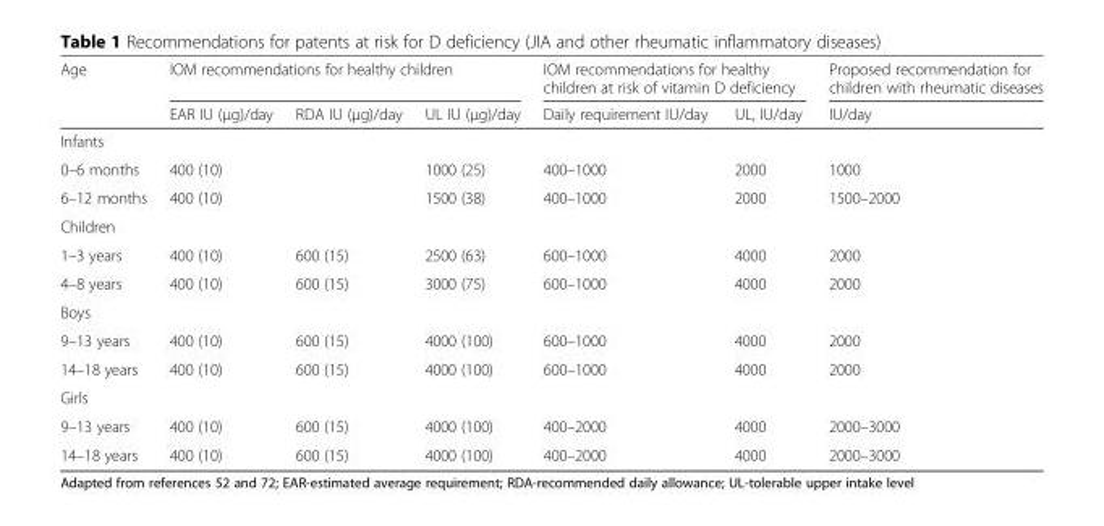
<table><thead><tr><td rowspan="2">Age</td><td colspan="3">IOM recommendations for healthy children</td><td colspan="2">IOM recommendations for healthy children at risk of vitamin D deficiency</td><td rowspan="2">Proposed recommendation for children with rheumatic diseases IU/day</td></tr><tr><td>EAR IU (μg)/day</td><td>RDA IU (μg)/day</td><td>UL IU (μg)/day</td><td>Daily requirement IU/day</td><td>UL, IU/day</td></tr></thead><tbody><tr><td colspan="7">Infants</td></tr><tr><td>0–6 months</td><td>400 (10)</td><td></td><td>1000 (25)</td><td>400–1000</td><td>2000</td><td>1000</td></tr><tr><td>6–12 months</td><td>400 (10)</td><td></td><td>1500 (38)</td><td>400–1000</td><td>2000</td><td>1500–2000</td></tr><tr><td colspan="7">Children</td></tr><tr><td>1–3 years</td><td>400 (10)</td><td>600 (15)</td><td>2500 (63)</td><td>600–1000</td><td>4000</td><td>2000</td></tr><tr><td>4–8 years</td><td>400 (10)</td><td>600 (15)</td><td>3000 (75)</td><td>600–1000</td><td>4000</td><td>2000</td></tr><tr><td colspan="7">Boys</td></tr><tr><td>9–13 years</td><td>400 (10)</td><td>600 (15)</td><td>4000 (100)</td><td>600–1000</td><td>4000</td><td>2000</td></tr><tr><td>14–18 years</td><td>400 (10)</td><td>600 (15)</td><td>4000 (100)</td><td>600–1000</td><td>4000</td><td>2000</td></tr><tr><td colspan="7">Girls</td></tr><tr><td>9–13 years</td><td>400 (10)</td><td>600 (15)</td><td>4000 (100)</td><td>400–2000</td><td>4000</td><td>2000–3000</td></tr><tr><td>14–18 years</td><td>400 (10)</td><td>600 (15)</td><td>4000 (100)</td><td>400–2000</td><td>4000</td><td>2000–3000</td></tr></tbody></table>